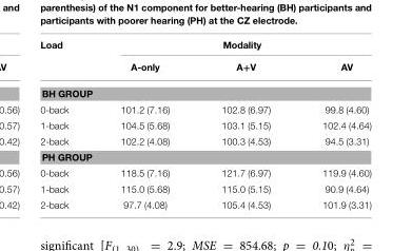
<table><thead><tr><td rowspan="2">Load</td><td colspan="3">Modality</td></tr><tr><td>A-only</td><td>A+V</td><td>AV</td></tr></thead><tbody><tr><td colspan="4">BH GROUP</td></tr><tr><td>0-back</td><td>101.2 (7.16)</td><td>102.8 (6.97)</td><td>99.8 (4.60)</td></tr><tr><td>1-back</td><td>104.5 (5.68)</td><td>103.1 (5.15)</td><td>102.4 (4.64)</td></tr><tr><td>2-back</td><td>102.2 (4.08)</td><td>100.3 (4.53)</td><td>94.5 (3.31)</td></tr><tr><td colspan="4">PH GROUP</td></tr><tr><td>0-back</td><td>118.5 (7.16)</td><td>121.7 (6.97)</td><td>119.9 (4.60)</td></tr><tr><td>1-back</td><td>115.0 (5.68)</td><td>115.0 (5.15)</td><td>90.9 (4.64)</td></tr><tr><td>2-back</td><td>97.7 (4.08)</td><td>105.4 (4.53)</td><td>101.9 (3.31)</td></tr></tbody></table>